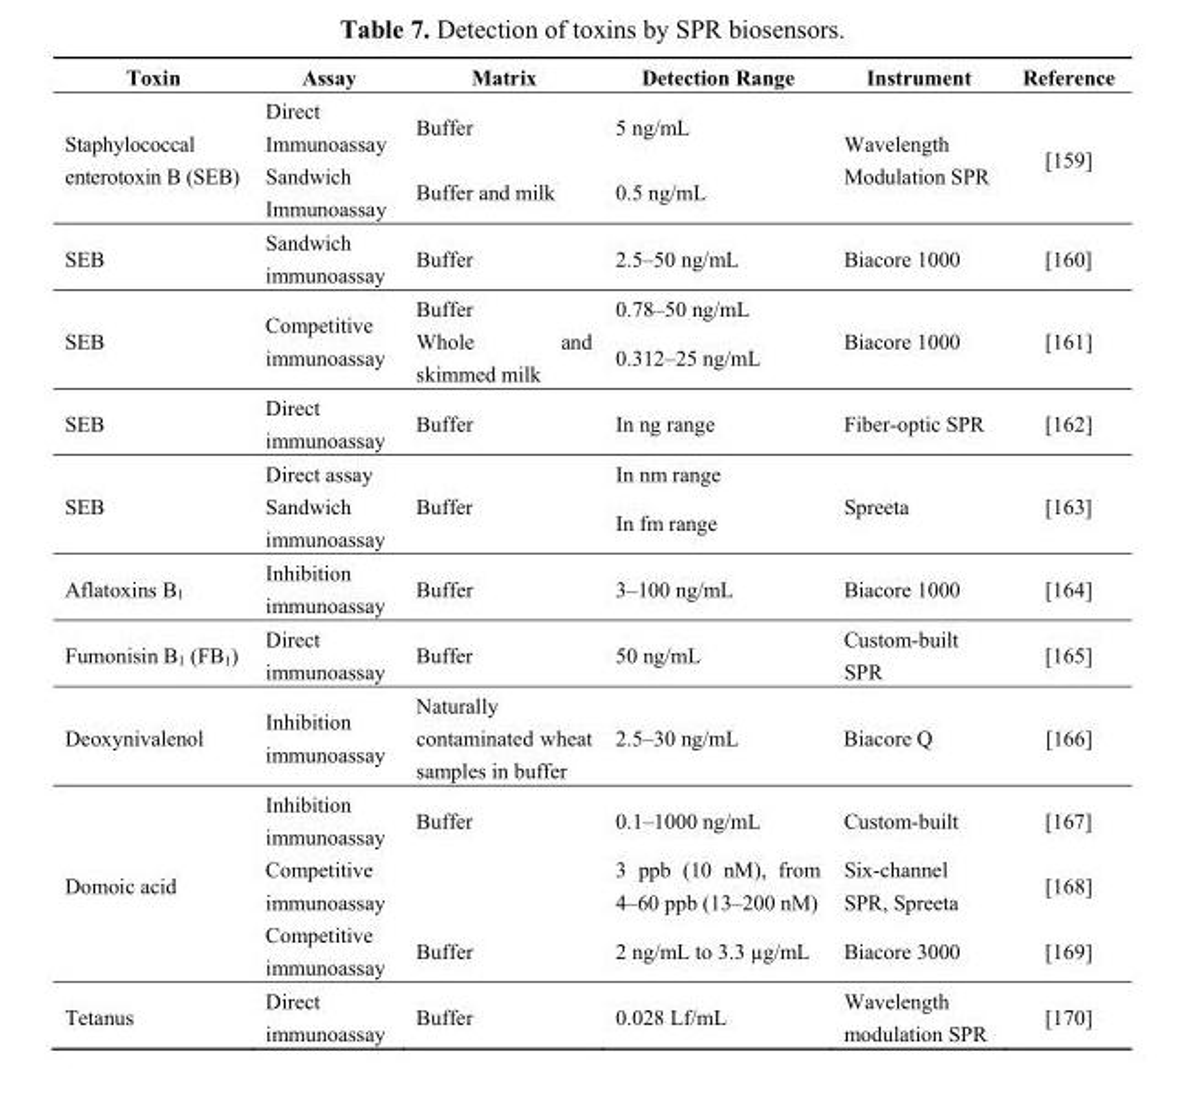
<table><thead><tr><td>Toxin</td><td>Assay</td><td>Matrix</td><td>Detection Range</td><td>Instrument</td><td>Reference</td></tr></thead><tbody><tr><td rowspan="2">Staphylococcal enterotoxin B (SEB)</td><td>Direct Immunoassay</td><td>Buffer</td><td>5 ng/mL</td><td rowspan="2">Wavelength Modulation SPR</td><td rowspan="2">[159]</td></tr><tr><td>Sandwich Immunoassay</td><td>Buffer and milk</td><td>0.5 ng/mL</td></tr><tr><td>SEB</td><td>Sandwich immunoassay</td><td>Buffer</td><td>2.5–50 ng/mL</td><td>Biacore 1000</td><td>[160]</td></tr><tr><td rowspan="2">SEB</td><td rowspan="2">Competitive immunoassay</td><td>Buffer</td><td>0.78–50 ng/mL</td><td rowspan="2">Biacore 1000</td><td rowspan="2">[161]</td></tr><tr><td>Whole and skimmed milk</td><td>0.312–25 ng/mL</td></tr><tr><td>SEB</td><td>Direct immunoassay</td><td>Buffer</td><td>In ng range</td><td>Fiber-optic SPR</td><td>[162]</td></tr><tr><td rowspan="2">SEB</td><td>Direct assay</td><td rowspan="2">Buffer</td><td>In nm range</td><td rowspan="2">Spreeta</td><td rowspan="2">[163]</td></tr><tr><td>Sandwich immunoassay</td><td>In fm range</td></tr><tr><td>Aflatoxins B<sub>1</sub></td><td>Inhibition immunoassay</td><td>Buffer</td><td>3–100 ng/mL</td><td>Biacore 1000</td><td>[164]</td></tr><tr><td>Fumonisin B<sub>1</sub> (FB<sub>1</sub>)</td><td>Direct immunoassay</td><td>Buffer</td><td>50 ng/mL</td><td>Custom-built SPR</td><td>[165]</td></tr><tr><td>Deoxynivalenol</td><td>Inhibition immunoassay</td><td>Naturally contaminated wheat samples in buffer</td><td>2.5–30 ng/mL</td><td>Biacore Q</td><td>[166]</td></tr><tr><td rowspan="3">Domoic acid</td><td>Inhibition immunoassay</td><td>Buffer</td><td>0.1–1000 ng/mL</td><td>Custom-built</td><td>[167]</td></tr><tr><td>Competitive immunoassay</td><td></td><td>3 ppb (10 nM), from 4–60 ppb (13–200 nM)</td><td>Six-channel SPR, Spreeta</td><td>[168]</td></tr><tr><td>Competitive immunoassay</td><td>Buffer</td><td>2 ng/mL to 3.3 µg/mL</td><td>Biacore 3000</td><td>[169]</td></tr><tr><td>Tetanus</td><td>Direct immunoassay</td><td>Buffer</td><td>0.028 Lf/mL</td><td>Wavelength modulation SPR</td><td>[170]</td></tr></tbody></table>